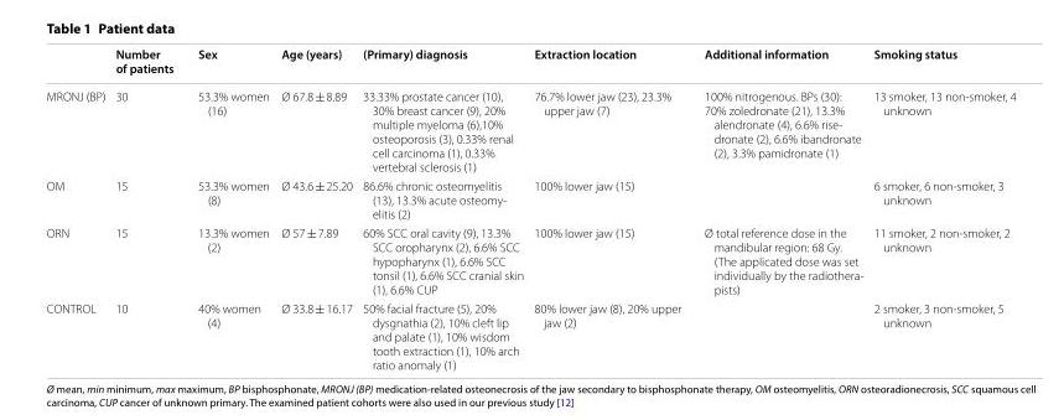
<table><thead><tr><td></td><td>Number of patients</td><td>Sex</td><td>Age (years)</td><td>(Primary) diagnosis</td><td>Extraction location</td><td>Additional information</td><td>Smoking status</td></tr></thead><tbody><tr><td>MRONJ (BP)</td><td>30</td><td>53.3% women (16)</td><td>Ø 67.8 ± 8.89</td><td>33.33% prostate cancer (10), 30% breast cancer (9), 20% multiple myeloma (6),10% osteoporosis (3), 0.33% renal cell carcinoma (1), 0.33% vertebral sclerosis (1)</td><td>76.7% lower jaw (23), 23.3% upper jaw (7)</td><td>100% nitrogenous. BPs (30): 70% zoledronate (21), 13.3% alendronate (4), 6.6% rise‑ dronate (2), 6.6% ibandronate (2), 3.3% pamidronate (1)</td><td>13 smoker, 13 non‑smoker, 4 unknown</td></tr><tr><td>OM</td><td>15</td><td>53.3% women (8)</td><td>Ø 43.6 ± 25.20</td><td>86.6% chronic osteomyelitis (13), 13.3% acute osteomy‑ elitis (2)</td><td>100% lower jaw (15)</td><td></td><td>6 smoker, 6 non‑smoker, 3 unknown</td></tr><tr><td>ORN</td><td>15</td><td>13.3% women (2)</td><td>Ø 57 ± 7.89</td><td>60% SCC oral cavity (9), 13.3% SCC oropharynx (2), 6.6% SCC hypopharynx (1), 6.6% SCC tonsil (1), 6.6% SCC cranial skin (1), 6.6% CUP</td><td>100% lower jaw (15)</td><td>Ø total reference dose in the mandibular region: 68 Gy. (The applicated dose was set individually by the radiothera‑ pists)</td><td>11 smoker, 2 non‑smoker, 2 unknown</td></tr><tr><td>CONTROL</td><td>10</td><td>40% women (4)</td><td>Ø 33.8 ± 16.17</td><td>50% facial fracture (5), 20% dysgnathia (2), 10% cleft lip and palate (1), 10% wisdom tooth extraction (1), 10% arch ratio anomaly (1)</td><td>80% lower jaw (8), 20% upper jaw (2)</td><td></td><td>2 smoker, 3 non‑smoker, 5 unknown</td></tr></tbody></table>